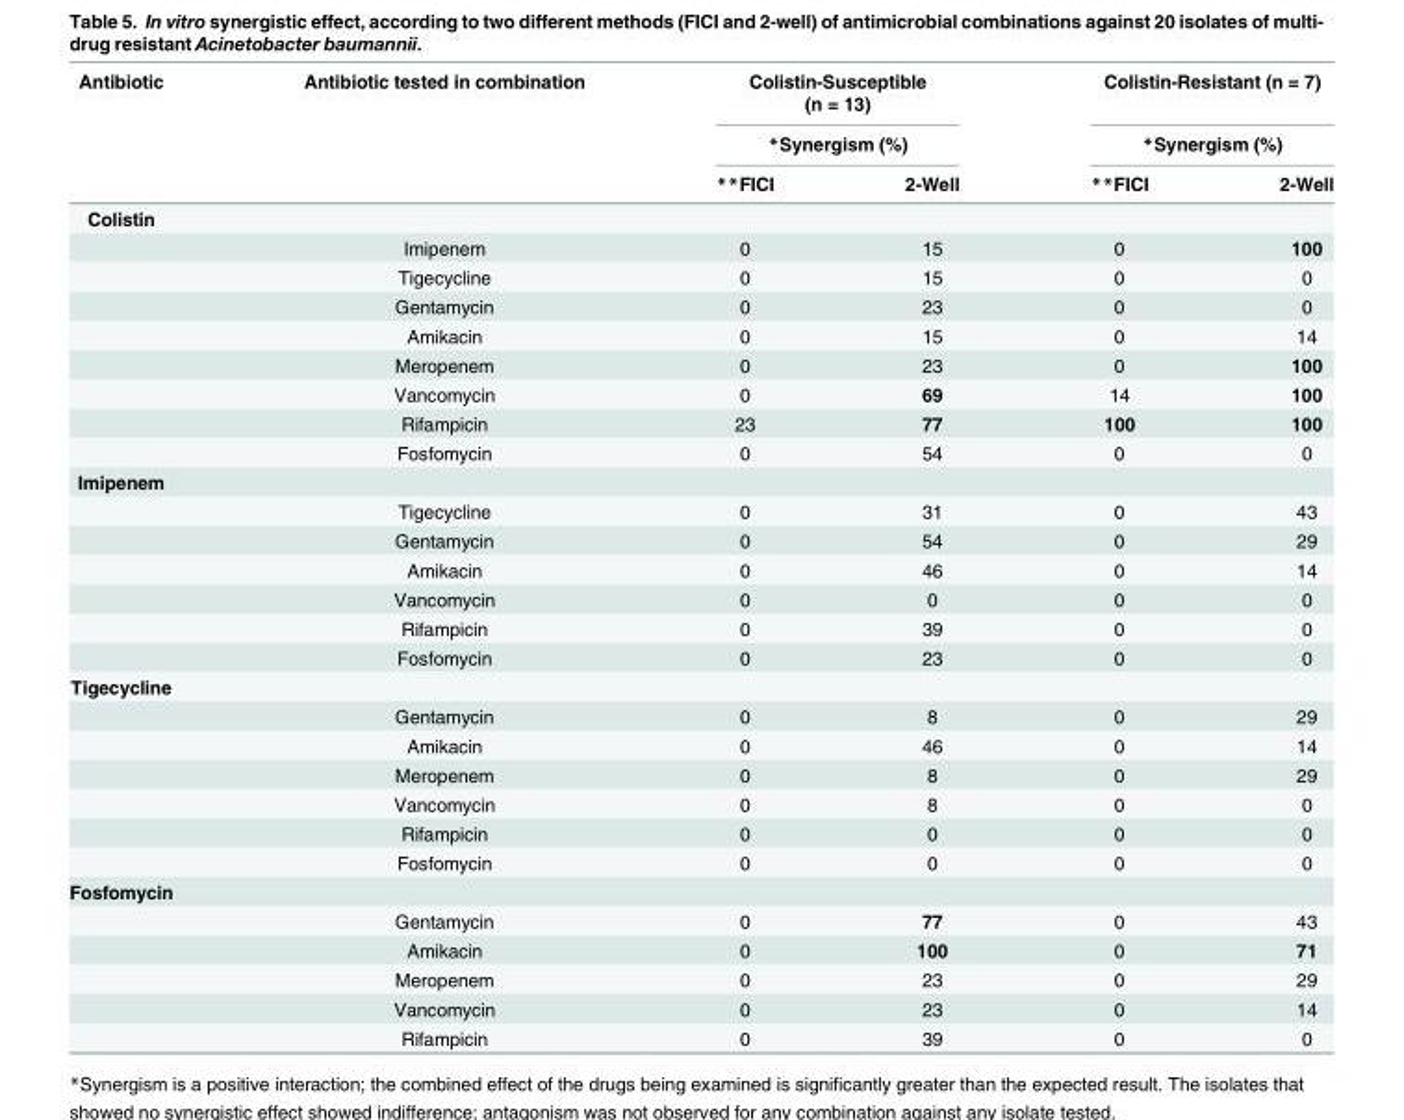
<table><thead><tr><td rowspan="3">Antibiotic</td><td rowspan="3">Antibiotic tested in combination</td><td rowspan="2" colspan="2">Colistin-Susceptible (n = 13) *Synergism (%)</td><td rowspan="2" colspan="2">Colistin-Resistant (n = 7) *Synergism (%)</td></tr><tr></tr><tr><td>**FICI</td><td>2-Well</td><td>**FICI</td><td>2-Well</td></tr></thead><tbody><tr><td colspan="6">Colistin</td></tr><tr><td></td><td>Imipenem</td><td>0</td><td>15</td><td>0</td><td>100</td></tr><tr><td></td><td>Tigecycline</td><td>0</td><td>15</td><td>0</td><td>0</td></tr><tr><td></td><td>Gentamycin</td><td>0</td><td>23</td><td>0</td><td>0</td></tr><tr><td></td><td>Amikacin</td><td>0</td><td>15</td><td>0</td><td>14</td></tr><tr><td></td><td>Meropenem</td><td>0</td><td>23</td><td>0</td><td>100</td></tr><tr><td></td><td>Vancomycin</td><td>0</td><td>69</td><td>14</td><td>100</td></tr><tr><td></td><td>Rifampicin</td><td>23</td><td>77</td><td>100</td><td>100</td></tr><tr><td></td><td>Fosfomycin</td><td>0</td><td>54</td><td>0</td><td>0</td></tr><tr><td colspan="6">Imipenem</td></tr><tr><td></td><td>Tigecycline</td><td>0</td><td>31</td><td>0</td><td>43</td></tr><tr><td></td><td>Gentamycin</td><td>0</td><td>54</td><td>0</td><td>29</td></tr><tr><td></td><td>Amikacin</td><td>0</td><td>46</td><td>0</td><td>14</td></tr><tr><td></td><td>Vancomycin</td><td>0</td><td>0</td><td>0</td><td>0</td></tr><tr><td></td><td>Rifampicin</td><td>0</td><td>39</td><td>0</td><td>0</td></tr><tr><td></td><td>Fosfomycin</td><td>0</td><td>23</td><td>0</td><td>0</td></tr><tr><td colspan="6">Tigecycline</td></tr><tr><td></td><td>Gentamycin</td><td>0</td><td>8</td><td>0</td><td>29</td></tr><tr><td></td><td>Amikacin</td><td>0</td><td>46</td><td>0</td><td>14</td></tr><tr><td></td><td>Meropenem</td><td>0</td><td>8</td><td>0</td><td>29</td></tr><tr><td></td><td>Vancomycin</td><td>0</td><td>8</td><td>0</td><td>0</td></tr><tr><td></td><td>Rifampicin</td><td>0</td><td>0</td><td>0</td><td>0</td></tr><tr><td></td><td>Fosfomycin</td><td>0</td><td>0</td><td>0</td><td>0</td></tr><tr><td colspan="6">Fosfomycin</td></tr><tr><td></td><td>Gentamycin</td><td>0</td><td>77</td><td>0</td><td>43</td></tr><tr><td></td><td>Amikacin</td><td>0</td><td>100</td><td>0</td><td>71</td></tr><tr><td></td><td>Meropenem</td><td>0</td><td>23</td><td>0</td><td>29</td></tr><tr><td></td><td>Vancomycin</td><td>0</td><td>23</td><td>0</td><td>14</td></tr><tr><td></td><td>Rifampicin</td><td>0</td><td>39</td><td>0</td><td>0</td></tr></tbody></table>